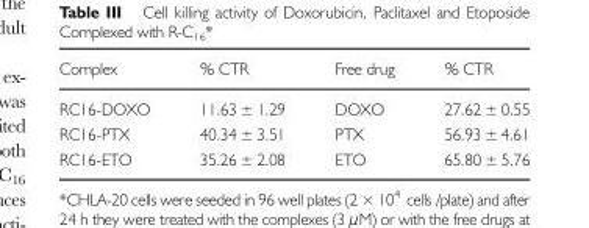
<table><thead><tr><td>Complex</td><td>% CTR</td><td>Free drug</td><td>% CTR</td></tr></thead><tbody><tr><td>RC16-DOXO</td><td>11.63 ± 1.29</td><td>DOXO</td><td>27.62 ± 0.55</td></tr><tr><td>RC16-PTX</td><td>40.34 ± 3.51</td><td>PTX</td><td>56.93 ± 4.61</td></tr><tr><td>RC16-ETO</td><td>35.26 ± 2.08</td><td>ETO</td><td>65.80 ± 5.76</td></tr></tbody></table>